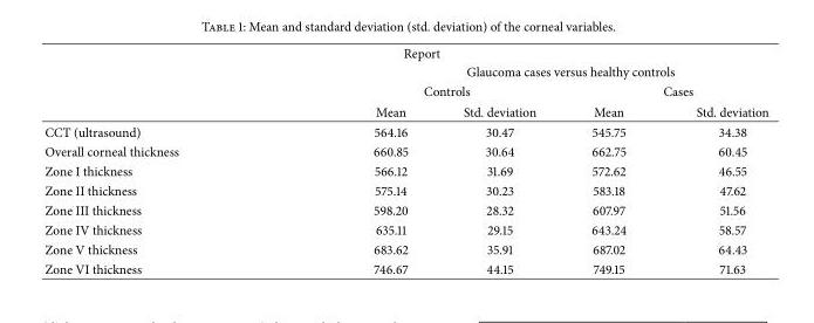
<table><thead><tr><td colspan="5">Report</td></tr><tr><td rowspan="3"></td><td colspan="4">Glaucoma cases versus healthy controls</td></tr><tr><td colspan="2">Controls</td><td colspan="2">Cases</td></tr><tr><td>Mean</td><td>Std. deviation</td><td>Mean</td><td>Std. deviation</td></tr></thead><tbody><tr><td>CCT (ultrasound)</td><td>564.16</td><td>30.47</td><td>545.75</td><td>34.38</td></tr><tr><td>Overall corneal thickness</td><td>660.85</td><td>30.64</td><td>662.75</td><td>60.45</td></tr><tr><td>Zone I thickness</td><td>566.12</td><td>31.69</td><td>572.62</td><td>46.55</td></tr><tr><td>Zone II thickness</td><td>575.14</td><td>30.23</td><td>583.18</td><td>47.62</td></tr><tr><td>Zone III thickness</td><td>598.20</td><td>28.32</td><td>607.97</td><td>51.56</td></tr><tr><td>Zone IV thickness</td><td>635.11</td><td>29.15</td><td>643.24</td><td>58.57</td></tr><tr><td>Zone V thickness</td><td>683.62</td><td>35.91</td><td>687.02</td><td>64.43</td></tr><tr><td>Zone VI thickness</td><td>746.67</td><td>44.15</td><td>749.15</td><td>71.63</td></tr></tbody></table>